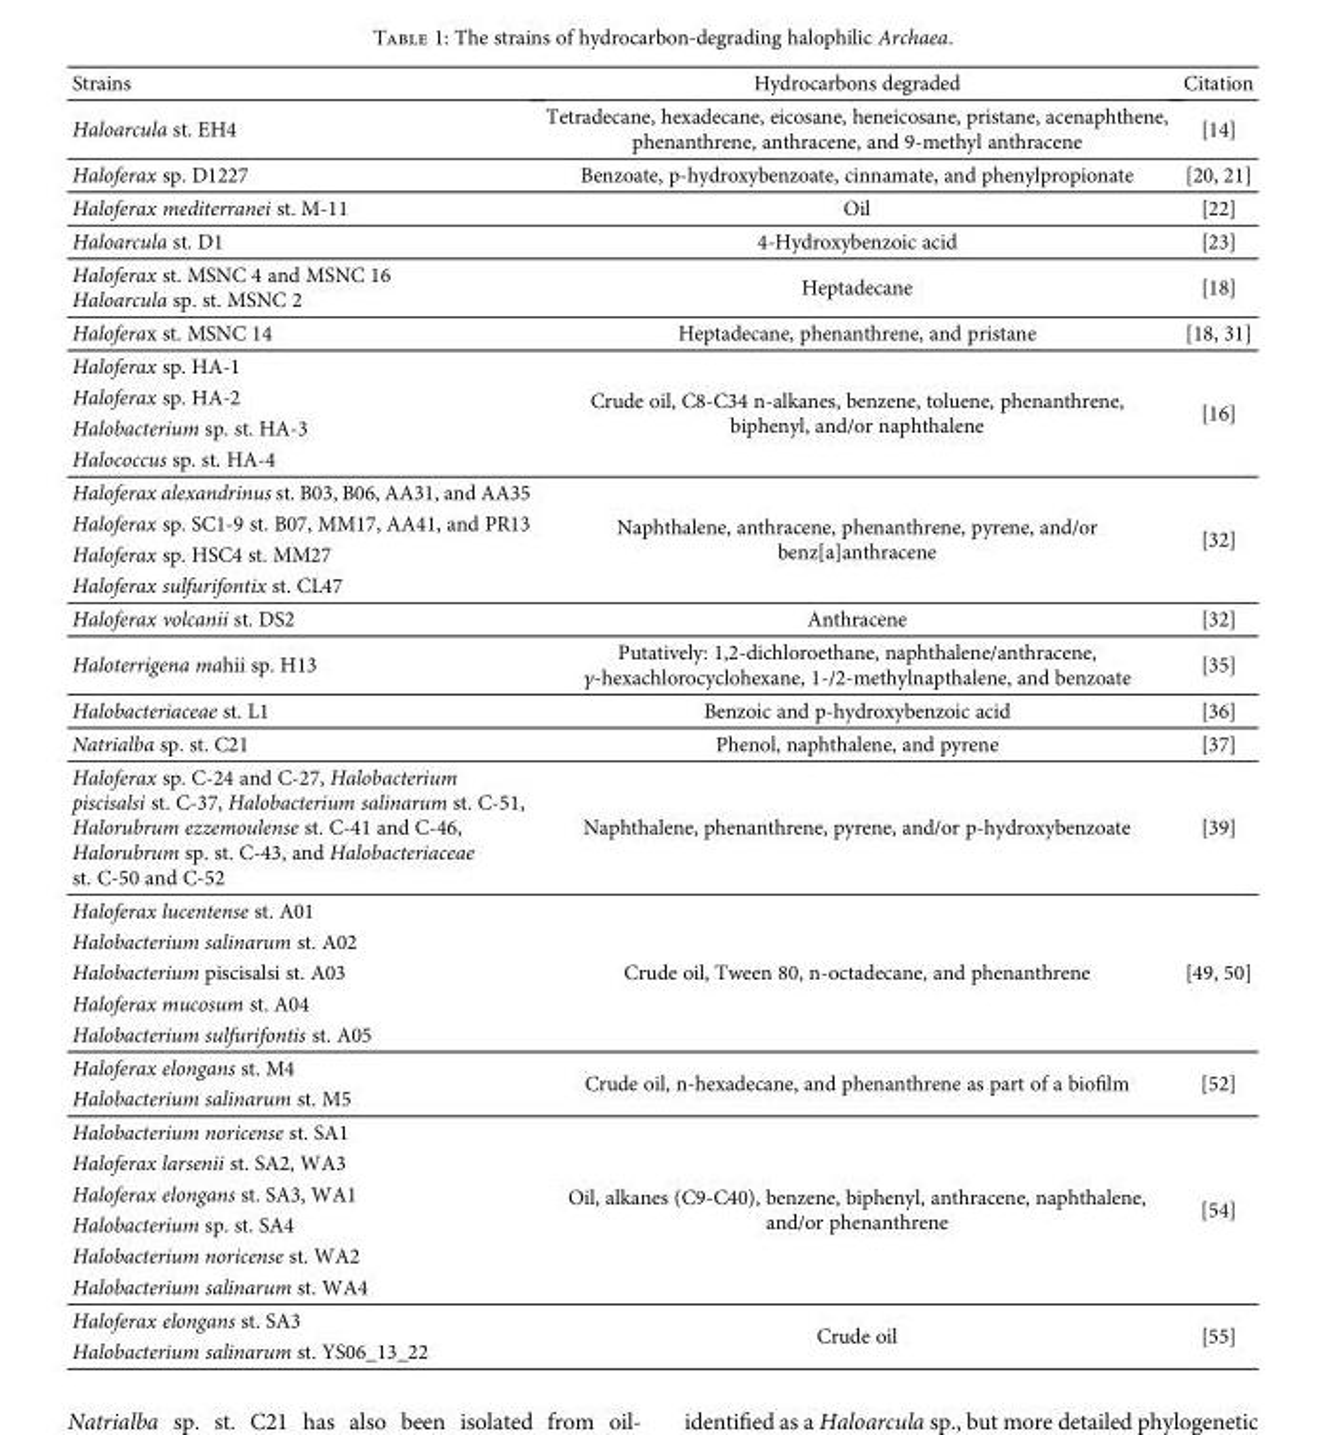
<table><thead><tr><td>Strains</td><td>Hydrocarbons degraded</td><td>Citation</td></tr></thead><tbody><tr><td>Haloarcula st. EH4</td><td>Tetradecane, hexadecane, eicosane, heneicosane, pristane, acenaphthene, phenanthrene, anthracene, and 9-methyl anthracene</td><td>[14]</td></tr><tr><td>Haloferax sp. D1227</td><td>Benzoate, p-hydroxybenzoate, cinnamate, and phenylpropionate</td><td>[20, 21]</td></tr><tr><td>Haloferax mediterranei st. M-11</td><td>Oil</td><td>[22]</td></tr><tr><td>Haloarcula st. D1</td><td>4-Hydroxybenzoic acid</td><td>[23]</td></tr><tr><td>Haloferax st. MSNC 4 and MSNC 16 Haloarcula sp. st. MSNC 2</td><td>Heptadecane</td><td>[18]</td></tr><tr><td>Haloferax st. MSNC 14</td><td>Heptadecane, phenanthrene, and pristane</td><td>[18, 31]</td></tr><tr><td>Haloferax sp. HA-1</td><td rowspan="4">Crude oil, C8-C34 n-alkanes, benzene, toluene, phenanthrene, biphenyl, and/or naphthalene</td><td rowspan="4">[16]</td></tr><tr><td>Haloferax sp. HA-2</td></tr><tr><td>Halobacterium sp. st. HA-3</td></tr><tr><td>Halococcus sp. st. HA-4</td></tr><tr><td>Haloferax alexandrinus st. B03, B06, AA31, and AA35</td><td rowspan="4">Naphthalene, anthracene, phenanthrene, pyrene, and/or benz[a]anthracene</td><td rowspan="4">[32]</td></tr><tr><td>Haloferax sp. SC1-9 st. B07, MM17, AA41, and PR13</td></tr><tr><td>Haloferax sp. HSC4 st. MM27</td></tr><tr><td>Haloferax sulfurifontix st. CL47</td></tr><tr><td>Haloferax volcanii st. DS2</td><td>Anthracene</td><td>[32]</td></tr><tr><td>Haloterrigena mahii sp. H13</td><td>Putatively: 1,2-dichloroethane, naphthalene/anthracene, γ-hexachlorocyclohexane, 1-/2-methylnapthalene, and benzoate</td><td>[35]</td></tr><tr><td>Halobacteriaceae st. L1</td><td>Benzoic and p-hydroxybenzoic acid</td><td>[36]</td></tr><tr><td>Natrialba sp. st. C21</td><td>Phenol, naphthalene, and pyrene</td><td>[37]</td></tr><tr><td>Haloferax sp. C-24 and C-27, Halobacterium piscisalsi st. C-37, Halobacterium salinarum st. C-51, Halorubrum ezzemoulense st. C-41 and C-46, Halorubrum sp. st. C-43, and Halobacteriaceae st. C-50 and C-52</td><td>Naphthalene, phenanthrene, pyrene, and/or p-hydroxybenzoate</td><td>[39]</td></tr><tr><td>Haloferax lucentense st. A01</td><td rowspan="5">Crude oil, Tween 80, n-octadecane, and phenanthrene</td><td rowspan="5">[49, 50]</td></tr><tr><td>Halobacterium salinarum st. A02</td></tr><tr><td>Halobacterium piscisalsi st. A03</td></tr><tr><td>Haloferax mucosum st. A04</td></tr><tr><td>Halobacterium sulfurifontis st. A05</td></tr><tr><td>Haloferax elongans st. M4</td><td rowspan="2">Crude oil, n-hexadecane, and phenanthrene as part of a biofilm</td><td rowspan="2">[52]</td></tr><tr><td>Halobacterium salinarum st. M5</td></tr><tr><td>Halobacterium noricense st. SA1</td><td rowspan="6">Oil, alkanes (C9-C40), benzene, biphenyl, anthracene, naphthalene, and/or phenanthrene</td><td rowspan="6">[54]</td></tr><tr><td>Haloferax larsenii st. SA2, WA3</td></tr><tr><td>Haloferax elongans st. SA3, WA1</td></tr><tr><td>Halobacterium sp. st. SA4</td></tr><tr><td>Halobacterium noricense st. WA2</td></tr><tr><td>Halobacterium salinarum st. WA4</td></tr><tr><td>Haloferax elongans st. SA3</td><td rowspan="2">Crude oil</td><td rowspan="2">[55]</td></tr><tr><td>Halobacterium salinarum st. YS06_13_22</td></tr></tbody></table>